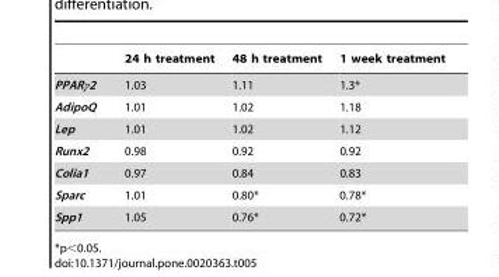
<table><thead><tr><td></td><td>24 h treatment</td><td>48 h treatment</td><td>1 week treatment</td></tr></thead><tbody><tr><td>PPARγ2</td><td>1.03</td><td>1.11</td><td>1.3*</td></tr><tr><td>AdipoQ</td><td>1.01</td><td>1.02</td><td>1.18</td></tr><tr><td>Lep</td><td>1.01</td><td>1.02</td><td>1.12</td></tr><tr><td>Runx2</td><td>0.98</td><td>0.92</td><td>0.92</td></tr><tr><td>Colia1</td><td>0.97</td><td>0.84</td><td>0.83</td></tr><tr><td>Sparc</td><td>1.01</td><td>0.80*</td><td>0.78*</td></tr><tr><td>Spp1</td><td>1.05</td><td>0.76*</td><td>0.72*</td></tr></tbody></table>